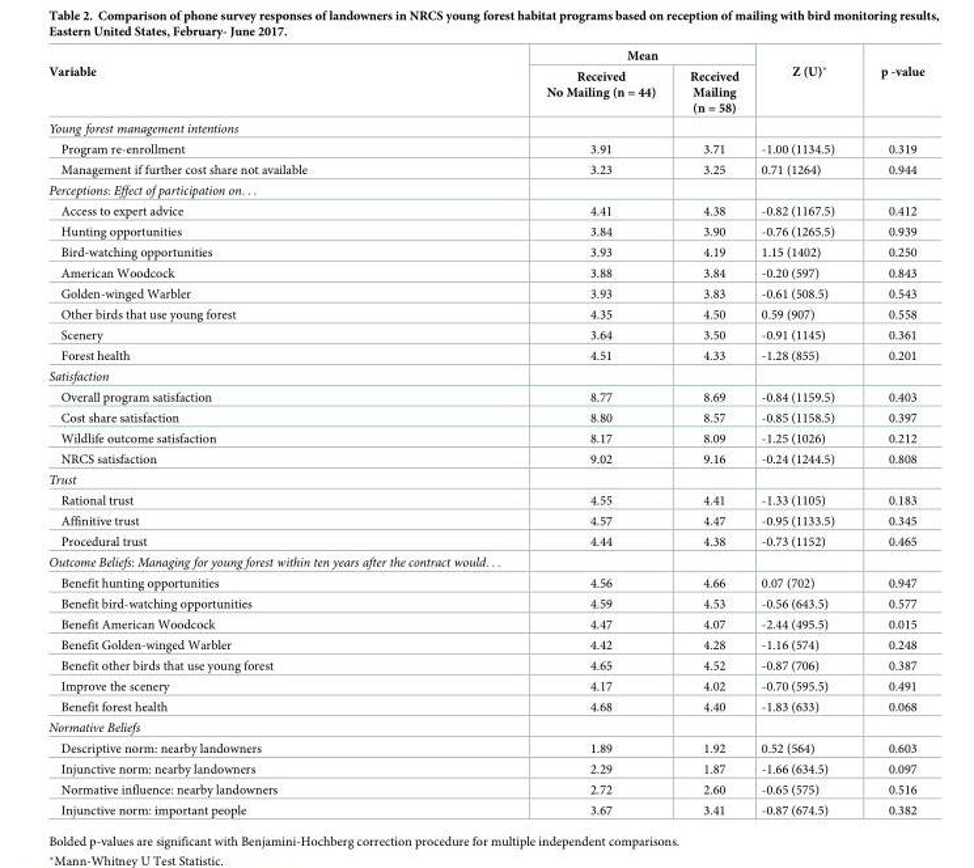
<table><thead><tr><td rowspan="2">Variable</td><td colspan="2">Mean</td><td rowspan="2">Z (U)*</td><td rowspan="2">p -value</td></tr><tr><td>Received No Mailing (n = 44)</td><td>Received Mailing (n = 58)</td></tr></thead><tbody><tr><td colspan="5">Young forest management intentions</td></tr><tr><td>Program re-enrollment</td><td>3.91</td><td>3.71</td><td>-1.00 (1134.5)</td><td>0.319</td></tr><tr><td>Management if further cost share not available</td><td>3.23</td><td>3.25</td><td>0.71 (1264)</td><td>0.944</td></tr><tr><td colspan="5">Perceptions: Effect of participation on. . .</td></tr><tr><td>Access to expert advice</td><td>4.41</td><td>4.38</td><td>-0.82 (1167.5)</td><td>0.412</td></tr><tr><td>Hunting opportunities</td><td>3.84</td><td>3.90</td><td>-0.76 (1265.5)</td><td>0.939</td></tr><tr><td>Bird-watching opportunities</td><td>3.93</td><td>4.19</td><td>1.15 (1402)</td><td>0.250</td></tr><tr><td>American Woodcock</td><td>3.88</td><td>3.84</td><td>-0.20 (597)</td><td>0.843</td></tr><tr><td>Golden-winged Warbler</td><td>3.93</td><td>3.83</td><td>-0.61 (508.5)</td><td>0.543</td></tr><tr><td>Other birds that use young forest</td><td>4.35</td><td>4.50</td><td>0.59 (907)</td><td>0.558</td></tr><tr><td>Scenery</td><td>3.64</td><td>3.50</td><td>-0.91 (1145)</td><td>0.361</td></tr><tr><td>Forest health</td><td>4.51</td><td>4.33</td><td>-1.28 (855)</td><td>0.201</td></tr><tr><td colspan="5">Satisfaction</td></tr><tr><td>Overall program satisfaction</td><td>8.77</td><td>8.69</td><td>-0.84 (1159.5)</td><td>0.403</td></tr><tr><td>Cost share satisfaction</td><td>8.80</td><td>8.57</td><td>-0.85 (1158.5)</td><td>0.397</td></tr><tr><td>Wildlife outcome satisfaction</td><td>8.17</td><td>8.09</td><td>-1.25 (1026)</td><td>0.212</td></tr><tr><td>NRCS satisfaction</td><td>9.02</td><td>9.16</td><td>-0.24 (1244.5)</td><td>0.808</td></tr><tr><td colspan="5">Trust</td></tr><tr><td>Rational trust</td><td>4.55</td><td>4.41</td><td>-1.33 (1105)</td><td>0.183</td></tr><tr><td>Affinitive trust</td><td>4.57</td><td>4.47</td><td>-0.95 (1133.5)</td><td>0.345</td></tr><tr><td>Procedural trust</td><td>4.44</td><td>4.38</td><td>-0.73 (1152)</td><td>0.465</td></tr><tr><td colspan="5">Outcome Beliefs: Managing for young forest within ten years after the contract would. . .</td></tr><tr><td>Benefit hunting opportunities</td><td>4.56</td><td>4.66</td><td>0.07 (702)</td><td>0.947</td></tr><tr><td>Benefit bird-watching opportunities</td><td>4.59</td><td>4.53</td><td>-0.56 (643.5)</td><td>0.577</td></tr><tr><td>Benefit American Woodcock</td><td>4.47</td><td>4.07</td><td>-2.44 (495.5)</td><td>0.015</td></tr><tr><td>Benefit Golden-winged Warbler</td><td>4.42</td><td>4.28</td><td>-1.16 (574)</td><td>0.248</td></tr><tr><td>Benefit other birds that use young forest</td><td>4.65</td><td>4.52</td><td>-0.87 (706)</td><td>0.387</td></tr><tr><td>Improve the scenery</td><td>4.17</td><td>4.02</td><td>-0.70 (595.5)</td><td>0.491</td></tr><tr><td>Benefit forest health</td><td>4.68</td><td>4.40</td><td>-1.83 (633)</td><td>0.068</td></tr><tr><td colspan="5">Normative Beliefs</td></tr><tr><td>Descriptive norm: nearby landowners</td><td>1.89</td><td>1.92</td><td>0.52 (564)</td><td>0.603</td></tr><tr><td>Injunctive norm: nearby landowners</td><td>2.29</td><td>1.87</td><td>-1.66 (634.5)</td><td>0.097</td></tr><tr><td>Normative influence: nearby landowners</td><td>2.72</td><td>2.60</td><td>-0.65 (575)</td><td>0.516</td></tr><tr><td>Injunctive norm: important people</td><td>3.67</td><td>3.41</td><td>-0.87 (674.5)</td><td>0.382</td></tr></tbody></table>